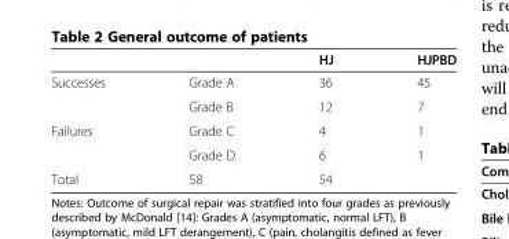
<table><thead><tr><td></td><td></td><td>HJ</td><td>HJPBD</td></tr></thead><tbody><tr><td rowspan="2">Successes</td><td>Grade A</td><td>36</td><td>45</td></tr><tr><td>Grade B</td><td>12</td><td>7</td></tr><tr><td rowspan="2">Failures</td><td>Grade C</td><td>4</td><td>1</td></tr><tr><td>Grade D</td><td>6</td><td>1</td></tr><tr><td>Total</td><td>58</td><td>54</td><td></td></tr></tbody></table>